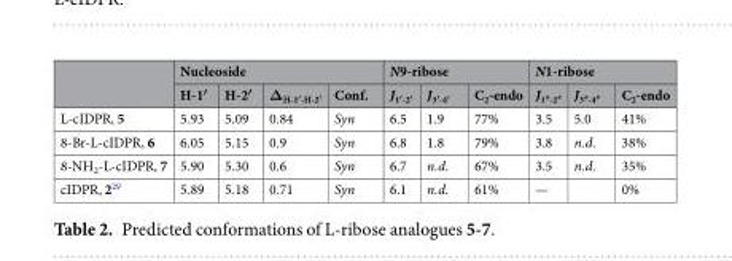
<table><thead><tr><td rowspan="2"></td><td colspan="4">Nucleoside</td><td colspan="3">N9-ribose</td><td colspan="3">N1-ribose</td></tr><tr><td>H-1′</td><td>H-2′</td><td>Δ<sub>H-1′-H-2′</sub></td><td>Conf.</td><td>J<sub>1′-2′</sub></td><td>J<sub>3′-4′</sub></td><td>C<sub>2</sub>-endo</td><td>J<sub>1″-2″</sub></td><td>J<sub>3″-4″</sub></td><td>C<sub>2</sub>-endo</td></tr></thead><tbody><tr><td>L-cIDPR, 5</td><td>5.93</td><td>5.09</td><td>0.84</td><td>Syn</td><td>6.5</td><td>1.9</td><td>77%</td><td>3.5</td><td>5.0</td><td>41%</td></tr><tr><td>8-Br-L-cIDPR, 6</td><td>6.05</td><td>5.15</td><td>0.9</td><td>Syn</td><td>6.8</td><td>1.8</td><td>79%</td><td>3.8</td><td>n.d.</td><td>38%</td></tr><tr><td>8-NH<sub>2</sub>-L-cIDPR, 7</td><td>5.90</td><td>5.30</td><td>0.6</td><td>Syn</td><td>6.7</td><td>n.d.</td><td>67%</td><td>3.5</td><td>n.d.</td><td>35%</td></tr><tr><td>cIDPR, 2<sup>29</sup></td><td>5.89</td><td>5.18</td><td>0.71</td><td>Syn</td><td>6.1</td><td>n.d.</td><td>61%</td><td>—</td><td></td><td>0%</td></tr></tbody></table>